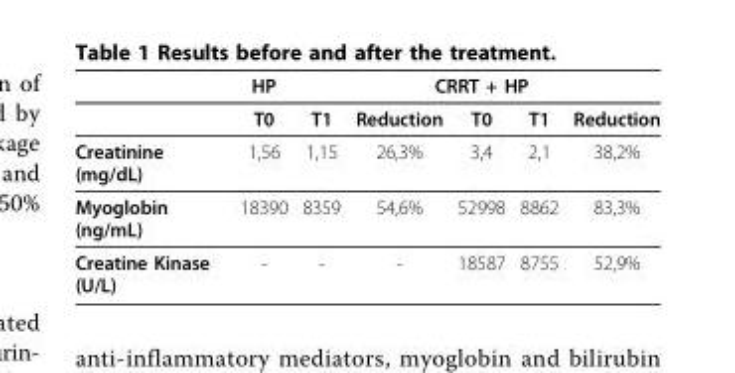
<table><thead><tr><td rowspan="2"></td><td rowspan="2">HP T0</td><td colspan="5">CRRT + HP</td></tr><tr><td>T1</td><td>Reduction</td><td>T0</td><td>T1</td><td>Reduction</td></tr></thead><tbody><tr><td>Creatinine (mg/dL)</td><td>1,56</td><td>1,15</td><td>26,3%</td><td>3,4</td><td>2,1</td><td>38,2%</td></tr><tr><td>Myoglobin (ng/mL)</td><td>18390</td><td>8359</td><td>54,6%</td><td>52998</td><td>8862</td><td>83,3%</td></tr><tr><td>Creatine Kinase (U/L)</td><td>-</td><td>-</td><td>-</td><td>18587</td><td>8755</td><td>52,9%</td></tr></tbody></table>